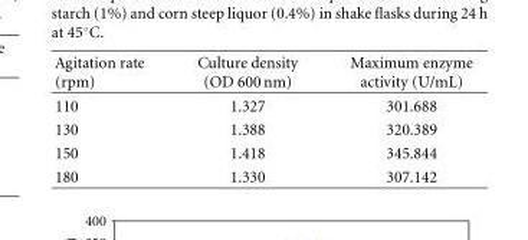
<table><thead><tr><td>Agitation rate (rpm)</td><td>Culture density (OD 600 nm)</td><td>Maximum enzyme activity (U/mL)</td></tr></thead><tbody><tr><td>110</td><td>1.327</td><td>301.688</td></tr><tr><td>130</td><td>1.388</td><td>320.389</td></tr><tr><td>150</td><td>1.418</td><td>345.844</td></tr><tr><td>180</td><td>1.330</td><td>307.142</td></tr></tbody></table>